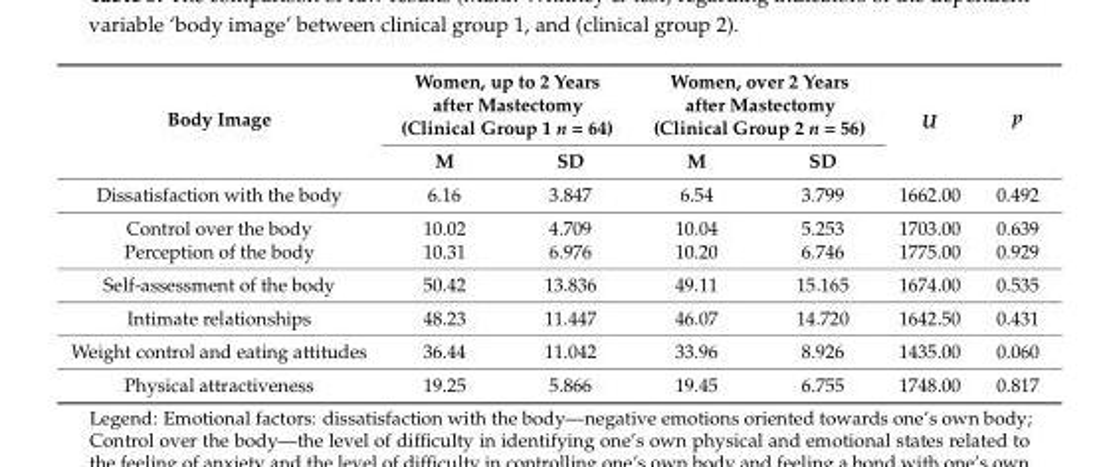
<table><thead><tr><td rowspan="2">Body Image</td><td colspan="2">Women, up to 2 Years after Mastectomy (Clinical Group 1 n = 64)</td><td colspan="2">Women, over 2 Years after Mastectomy (Clinical Group 2 n = 56)</td><td rowspan="2">U</td><td rowspan="2">p</td></tr><tr><td>M</td><td>SD</td><td>M</td><td>SD</td></tr></thead><tbody><tr><td>Dissatisfaction with the body</td><td>6.16</td><td>3.847</td><td>6.54</td><td>3.799</td><td>1662.00</td><td>0.492</td></tr><tr><td>Control over the body</td><td>10.02</td><td>4.709</td><td>10.04</td><td>5.253</td><td>1703.00</td><td>0.639</td></tr><tr><td>Perception of the body</td><td>10.31</td><td>6.976</td><td>10.20</td><td>6.746</td><td>1775.00</td><td>0.929</td></tr><tr><td>Self-assessment of the body</td><td>50.42</td><td>13.836</td><td>49.11</td><td>15.165</td><td>1674.00</td><td>0.535</td></tr><tr><td>Intimate relationships</td><td>48.23</td><td>11.447</td><td>46.07</td><td>14.720</td><td>1642.50</td><td>0.431</td></tr><tr><td>Weight control and eating attitudes</td><td>36.44</td><td>11.042</td><td>33.96</td><td>8.926</td><td>1435.00</td><td>0.060</td></tr><tr><td>Physical attractiveness</td><td>19.25</td><td>5.866</td><td>19.45</td><td>6.755</td><td>1748.00</td><td>0.817</td></tr></tbody></table>